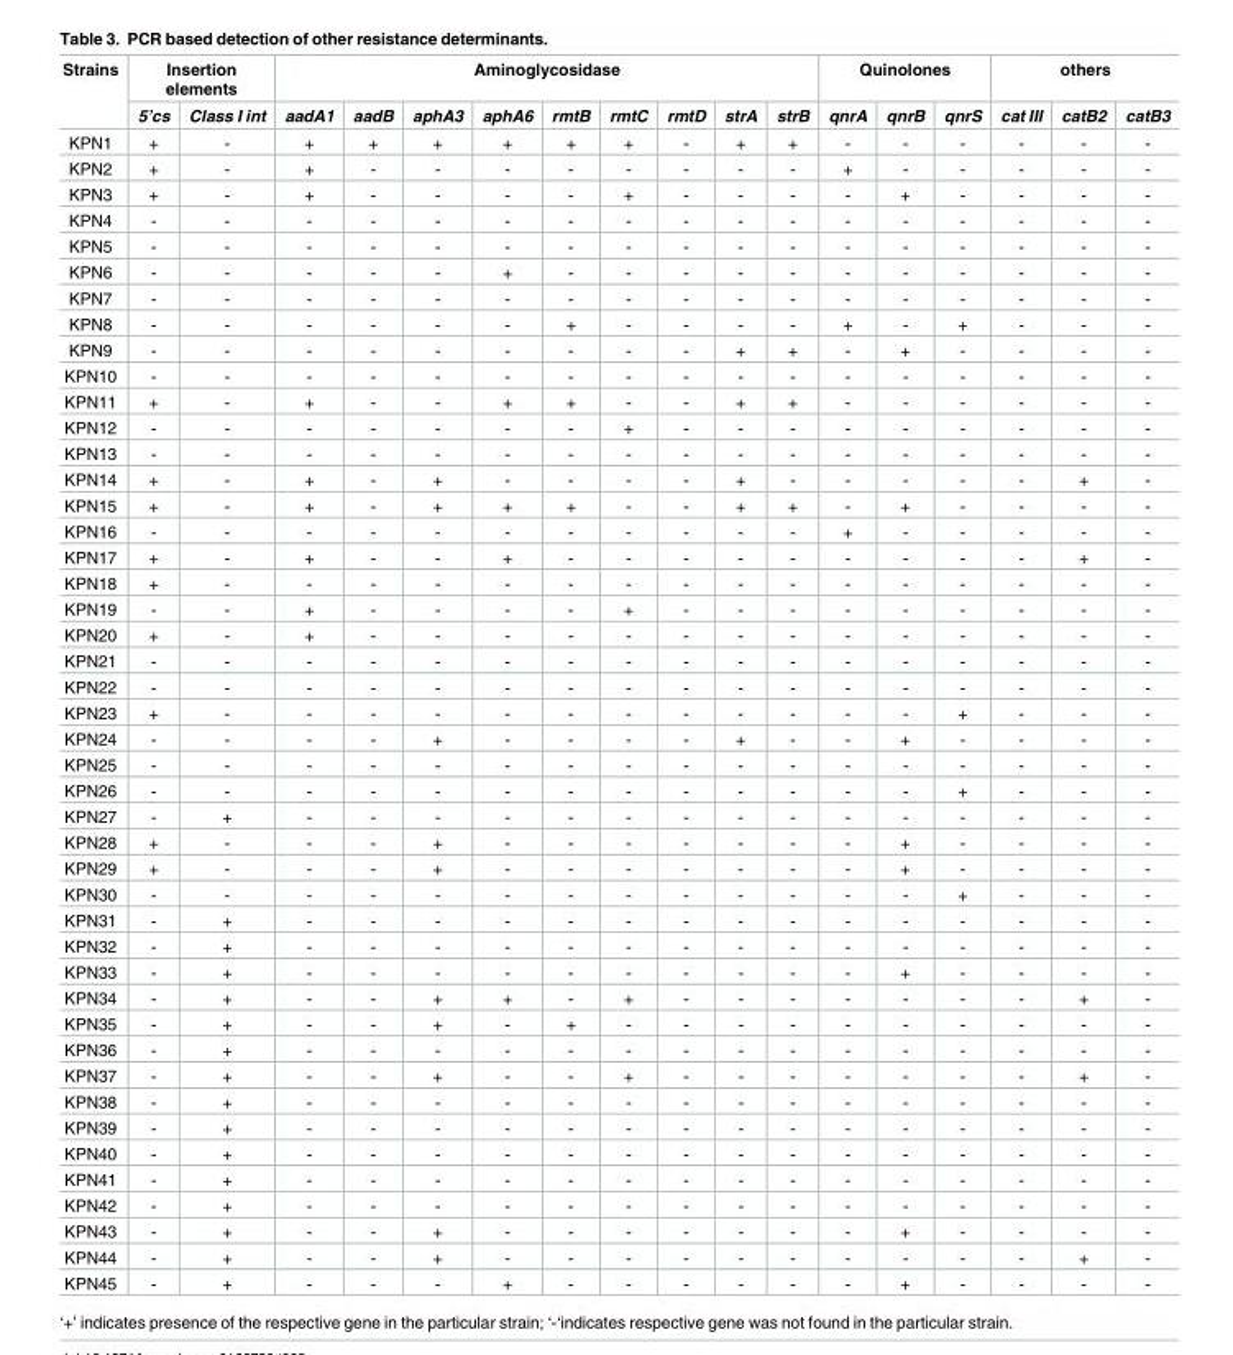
<table><thead><tr><td rowspan="2">Strains</td><td colspan="2">Insertion elements</td><td colspan="9">Aminoglycosidase</td><td colspan="3">Quinolones</td><td colspan="3">others</td></tr><tr><td>5’cs</td><td>Class I int</td><td>aadA1</td><td>aadB</td><td>aphA3</td><td>aphA6</td><td>rmtB</td><td>rmtC</td><td>rmtD</td><td>strA</td><td>strB</td><td>qnrA</td><td>qnrB</td><td>qnrS</td><td>cat III</td><td>catB2</td><td>catB3</td></tr></thead><tbody><tr><td>KPN1</td><td>+</td><td>-</td><td>+</td><td>+</td><td>+</td><td>+</td><td>+</td><td>+</td><td>-</td><td>+</td><td>+</td><td>-</td><td>-</td><td>-</td><td>-</td><td>-</td><td>-</td></tr><tr><td>KPN2</td><td>+</td><td>-</td><td>+</td><td>-</td><td>-</td><td>-</td><td>-</td><td>-</td><td>-</td><td>-</td><td>-</td><td>+</td><td>-</td><td>-</td><td>-</td><td>-</td><td>-</td></tr><tr><td>KPN3</td><td>+</td><td>-</td><td>+</td><td>-</td><td>-</td><td>-</td><td>-</td><td>+</td><td>-</td><td>-</td><td>-</td><td>-</td><td>+</td><td>-</td><td>-</td><td>-</td><td>-</td></tr><tr><td>KPN4</td><td>-</td><td>-</td><td>-</td><td>-</td><td>-</td><td>-</td><td>-</td><td>-</td><td>-</td><td>-</td><td>-</td><td>-</td><td>-</td><td>-</td><td>-</td><td>-</td><td>-</td></tr><tr><td>KPN5</td><td>-</td><td>-</td><td>-</td><td>-</td><td>-</td><td>-</td><td>-</td><td>-</td><td>-</td><td>-</td><td>-</td><td>-</td><td>-</td><td>-</td><td>-</td><td>-</td><td>-</td></tr><tr><td>KPN6</td><td>-</td><td>-</td><td>-</td><td>-</td><td>-</td><td>+</td><td>-</td><td>-</td><td>-</td><td>-</td><td>-</td><td>-</td><td>-</td><td>-</td><td>-</td><td>-</td><td>-</td></tr><tr><td>KPN7</td><td>-</td><td>-</td><td>-</td><td>-</td><td>-</td><td>-</td><td>-</td><td>-</td><td>-</td><td>-</td><td>-</td><td>-</td><td>-</td><td>-</td><td>-</td><td>-</td><td>-</td></tr><tr><td>KPN8</td><td>-</td><td>-</td><td>-</td><td>-</td><td>-</td><td>-</td><td>+</td><td>-</td><td>-</td><td>-</td><td>-</td><td>+</td><td>-</td><td>+</td><td>-</td><td>-</td><td>-</td></tr><tr><td>KPN9</td><td>-</td><td>-</td><td>-</td><td>-</td><td>-</td><td>-</td><td>-</td><td>-</td><td>-</td><td>+</td><td>+</td><td>-</td><td>+</td><td>-</td><td>-</td><td>-</td><td>-</td></tr><tr><td>KPN10</td><td>-</td><td>-</td><td>-</td><td>-</td><td>-</td><td>-</td><td>-</td><td>-</td><td>-</td><td>-</td><td>-</td><td>-</td><td>-</td><td>-</td><td>-</td><td>-</td><td>-</td></tr><tr><td>KPN11</td><td>+</td><td>-</td><td>+</td><td>-</td><td>-</td><td>+</td><td>+</td><td>-</td><td>-</td><td>+</td><td>+</td><td>-</td><td>-</td><td>-</td><td>-</td><td>-</td><td>-</td></tr><tr><td>KPN12</td><td>-</td><td>-</td><td>-</td><td>-</td><td>-</td><td>-</td><td>-</td><td>+</td><td>-</td><td>-</td><td>-</td><td>-</td><td>-</td><td>-</td><td>-</td><td>-</td><td>-</td></tr><tr><td>KPN13</td><td>-</td><td>-</td><td>-</td><td>-</td><td>-</td><td>-</td><td>-</td><td>-</td><td>-</td><td>-</td><td>-</td><td>-</td><td>-</td><td>-</td><td>-</td><td>-</td><td>-</td></tr><tr><td>KPN14</td><td>+</td><td>-</td><td>+</td><td>-</td><td>+</td><td>-</td><td>-</td><td>-</td><td>-</td><td>+</td><td>-</td><td>-</td><td>-</td><td>-</td><td>-</td><td>+</td><td>-</td></tr><tr><td>KPN15</td><td>+</td><td>-</td><td>+</td><td>-</td><td>+</td><td>+</td><td>+</td><td>-</td><td>-</td><td>+</td><td>+</td><td>-</td><td>+</td><td>-</td><td>-</td><td>-</td><td>-</td></tr><tr><td>KPN16</td><td>-</td><td>-</td><td>-</td><td>-</td><td>-</td><td>-</td><td>-</td><td>-</td><td>-</td><td>-</td><td>-</td><td>+</td><td>-</td><td>-</td><td>-</td><td>-</td><td>-</td></tr><tr><td>KPN17</td><td>+</td><td>-</td><td>+</td><td>-</td><td>-</td><td>+</td><td>-</td><td>-</td><td>-</td><td>-</td><td>-</td><td>-</td><td>-</td><td>-</td><td>-</td><td>+</td><td>-</td></tr><tr><td>KPN18</td><td>+</td><td>-</td><td>-</td><td>-</td><td>-</td><td>-</td><td>-</td><td>-</td><td>-</td><td>-</td><td>-</td><td>-</td><td>-</td><td>-</td><td>-</td><td>-</td><td>-</td></tr><tr><td>KPN19</td><td>-</td><td>-</td><td>+</td><td>-</td><td>-</td><td>-</td><td>-</td><td>+</td><td>-</td><td>-</td><td>-</td><td>-</td><td>-</td><td>-</td><td>-</td><td>-</td><td>-</td></tr><tr><td>KPN20</td><td>+</td><td>-</td><td>+</td><td>-</td><td>-</td><td>-</td><td>-</td><td>-</td><td>-</td><td>-</td><td>-</td><td>-</td><td>-</td><td>-</td><td>-</td><td>-</td><td>-</td></tr><tr><td>KPN21</td><td>-</td><td>-</td><td>-</td><td>-</td><td>-</td><td>-</td><td>-</td><td>-</td><td>-</td><td>-</td><td>-</td><td>-</td><td>-</td><td>-</td><td>-</td><td>-</td><td>-</td></tr><tr><td>KPN22</td><td>-</td><td>-</td><td>-</td><td>-</td><td>-</td><td>-</td><td>-</td><td>-</td><td>-</td><td>-</td><td>-</td><td>-</td><td>-</td><td>-</td><td>-</td><td>-</td><td>-</td></tr><tr><td>KPN23</td><td>+</td><td>-</td><td>-</td><td>-</td><td>-</td><td>-</td><td>-</td><td>-</td><td>-</td><td>-</td><td>-</td><td>-</td><td>-</td><td>+</td><td>-</td><td>-</td><td>-</td></tr><tr><td>KPN24</td><td>-</td><td>-</td><td>-</td><td>-</td><td>+</td><td>-</td><td>-</td><td>-</td><td>-</td><td>+</td><td>-</td><td>-</td><td>+</td><td>-</td><td>-</td><td>-</td><td>-</td></tr><tr><td>KPN25</td><td>-</td><td>-</td><td>-</td><td>-</td><td>-</td><td>-</td><td>-</td><td>-</td><td>-</td><td>-</td><td>-</td><td>-</td><td>-</td><td>-</td><td>-</td><td>-</td><td>-</td></tr><tr><td>KPN26</td><td>-</td><td>-</td><td>-</td><td>-</td><td>-</td><td>-</td><td>-</td><td>-</td><td>-</td><td>-</td><td>-</td><td>-</td><td>-</td><td>+</td><td>-</td><td>-</td><td>-</td></tr><tr><td>KPN27</td><td>-</td><td>+</td><td>-</td><td>-</td><td>-</td><td>-</td><td>-</td><td>-</td><td>-</td><td>-</td><td>-</td><td>-</td><td>-</td><td>-</td><td>-</td><td>-</td><td>-</td></tr><tr><td>KPN28</td><td>+</td><td>-</td><td>-</td><td>-</td><td>+</td><td>-</td><td>-</td><td>-</td><td>-</td><td>-</td><td>-</td><td>-</td><td>+</td><td>-</td><td>-</td><td>-</td><td>-</td></tr><tr><td>KPN29</td><td>+</td><td>-</td><td>-</td><td>-</td><td>+</td><td>-</td><td>-</td><td>-</td><td>-</td><td>-</td><td>-</td><td>-</td><td>+</td><td>-</td><td>-</td><td>-</td><td>-</td></tr><tr><td>KPN30</td><td>-</td><td>-</td><td>-</td><td>-</td><td>-</td><td>-</td><td>-</td><td>-</td><td>-</td><td>-</td><td>-</td><td>-</td><td>-</td><td>+</td><td>-</td><td>-</td><td>-</td></tr><tr><td>KPN31</td><td>-</td><td>+</td><td>-</td><td>-</td><td>-</td><td>-</td><td>-</td><td>-</td><td>-</td><td>-</td><td>-</td><td>-</td><td>-</td><td>-</td><td>-</td><td>-</td><td>-</td></tr><tr><td>KPN32</td><td>-</td><td>+</td><td>-</td><td>-</td><td>-</td><td>-</td><td>-</td><td>-</td><td>-</td><td>-</td><td>-</td><td>-</td><td>-</td><td>-</td><td>-</td><td>-</td><td>-</td></tr><tr><td>KPN33</td><td>-</td><td>+</td><td>-</td><td>-</td><td>-</td><td>-</td><td>-</td><td>-</td><td>-</td><td>-</td><td>-</td><td>-</td><td>+</td><td>-</td><td>-</td><td>-</td><td>-</td></tr><tr><td>KPN34</td><td>-</td><td>+</td><td>-</td><td>-</td><td>+</td><td>+</td><td>-</td><td>+</td><td>-</td><td>-</td><td>-</td><td>-</td><td>-</td><td>-</td><td>-</td><td>+</td><td>-</td></tr><tr><td>KPN35</td><td>-</td><td>+</td><td>-</td><td>-</td><td>+</td><td>-</td><td>+</td><td>-</td><td>-</td><td>-</td><td>-</td><td>-</td><td>-</td><td>-</td><td>-</td><td>-</td><td>-</td></tr><tr><td>KPN36</td><td>-</td><td>+</td><td>-</td><td>-</td><td>-</td><td>-</td><td>-</td><td>-</td><td>-</td><td>-</td><td>-</td><td>-</td><td>-</td><td>-</td><td>-</td><td>-</td><td>-</td></tr><tr><td>KPN37</td><td>-</td><td>+</td><td>-</td><td>-</td><td>+</td><td>-</td><td>-</td><td>+</td><td>-</td><td>-</td><td>-</td><td>-</td><td>-</td><td>-</td><td>-</td><td>+</td><td>-</td></tr><tr><td>KPN38</td><td>-</td><td>+</td><td>-</td><td>-</td><td>-</td><td>-</td><td>-</td><td>-</td><td>-</td><td>-</td><td>-</td><td>-</td><td>-</td><td>-</td><td>-</td><td>-</td><td>-</td></tr><tr><td>KPN39</td><td>-</td><td>+</td><td>-</td><td>-</td><td>-</td><td>-</td><td>-</td><td>-</td><td>-</td><td>-</td><td>-</td><td>-</td><td>-</td><td>-</td><td>-</td><td>-</td><td>-</td></tr><tr><td>KPN40</td><td>-</td><td>+</td><td>-</td><td>-</td><td>-</td><td>-</td><td>-</td><td>-</td><td>-</td><td>-</td><td>-</td><td>-</td><td>-</td><td>-</td><td>-</td><td>-</td><td>-</td></tr><tr><td>KPN41</td><td>-</td><td>+</td><td>-</td><td>-</td><td>-</td><td>-</td><td>-</td><td>-</td><td>-</td><td>-</td><td>-</td><td>-</td><td>-</td><td>-</td><td>-</td><td>-</td><td>-</td></tr><tr><td>KPN42</td><td>-</td><td>+</td><td>-</td><td>-</td><td>-</td><td>-</td><td>-</td><td>-</td><td>-</td><td>-</td><td>-</td><td>-</td><td>-</td><td>-</td><td>-</td><td>-</td><td>-</td></tr><tr><td>KPN43</td><td>-</td><td>+</td><td>-</td><td>-</td><td>+</td><td>-</td><td>-</td><td>-</td><td>-</td><td>-</td><td>-</td><td>-</td><td>+</td><td>-</td><td>-</td><td>-</td><td>-</td></tr><tr><td>KPN44</td><td>-</td><td>+</td><td>-</td><td>-</td><td>+</td><td>-</td><td>-</td><td>-</td><td>-</td><td>-</td><td>-</td><td>-</td><td>-</td><td>-</td><td>-</td><td>+</td><td>-</td></tr><tr><td>KPN45</td><td>-</td><td>+</td><td>-</td><td>-</td><td>-</td><td>+</td><td>-</td><td>-</td><td>-</td><td>-</td><td>-</td><td>-</td><td>+</td><td>-</td><td>-</td><td>-</td><td>-</td></tr></tbody></table>